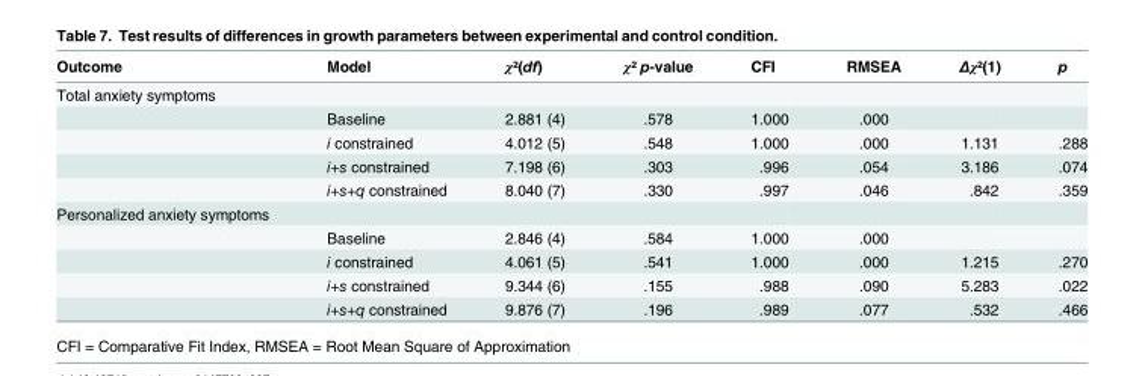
<table><thead><tr><td>Outcome</td><td>Model</td><td>χ²(df)</td><td>χ² p-value</td><td>CFI</td><td>RMSEA</td><td>Δχ²(1)</td><td>p</td></tr></thead><tbody><tr><td colspan="8">Total anxiety symptoms</td></tr><tr><td></td><td>Baseline</td><td>2.881 (4)</td><td>.578</td><td>1.000</td><td>.000</td><td></td><td></td></tr><tr><td></td><td>i constrained</td><td>4.012 (5)</td><td>.548</td><td>1.000</td><td>.000</td><td>1.131</td><td>.288</td></tr><tr><td></td><td>i+s constrained</td><td>7.198 (6)</td><td>.303</td><td>.996</td><td>.054</td><td>3.186</td><td>.074</td></tr><tr><td></td><td>i+s+q constrained</td><td>8.040 (7)</td><td>.330</td><td>.997</td><td>.046</td><td>.842</td><td>.359</td></tr><tr><td colspan="8">Personalized anxiety symptoms</td></tr><tr><td></td><td>Baseline</td><td>2.846 (4)</td><td>.584</td><td>1.000</td><td>.000</td><td></td><td></td></tr><tr><td></td><td>i constrained</td><td>4.061 (5)</td><td>.541</td><td>1.000</td><td>.000</td><td>1.215</td><td>.270</td></tr><tr><td></td><td>i+s constrained</td><td>9.344 (6)</td><td>.155</td><td>.988</td><td>.090</td><td>5.283</td><td>.022</td></tr><tr><td></td><td>i+s+q constrained</td><td>9.876 (7)</td><td>.196</td><td>.989</td><td>.077</td><td>.532</td><td>.466</td></tr></tbody></table>